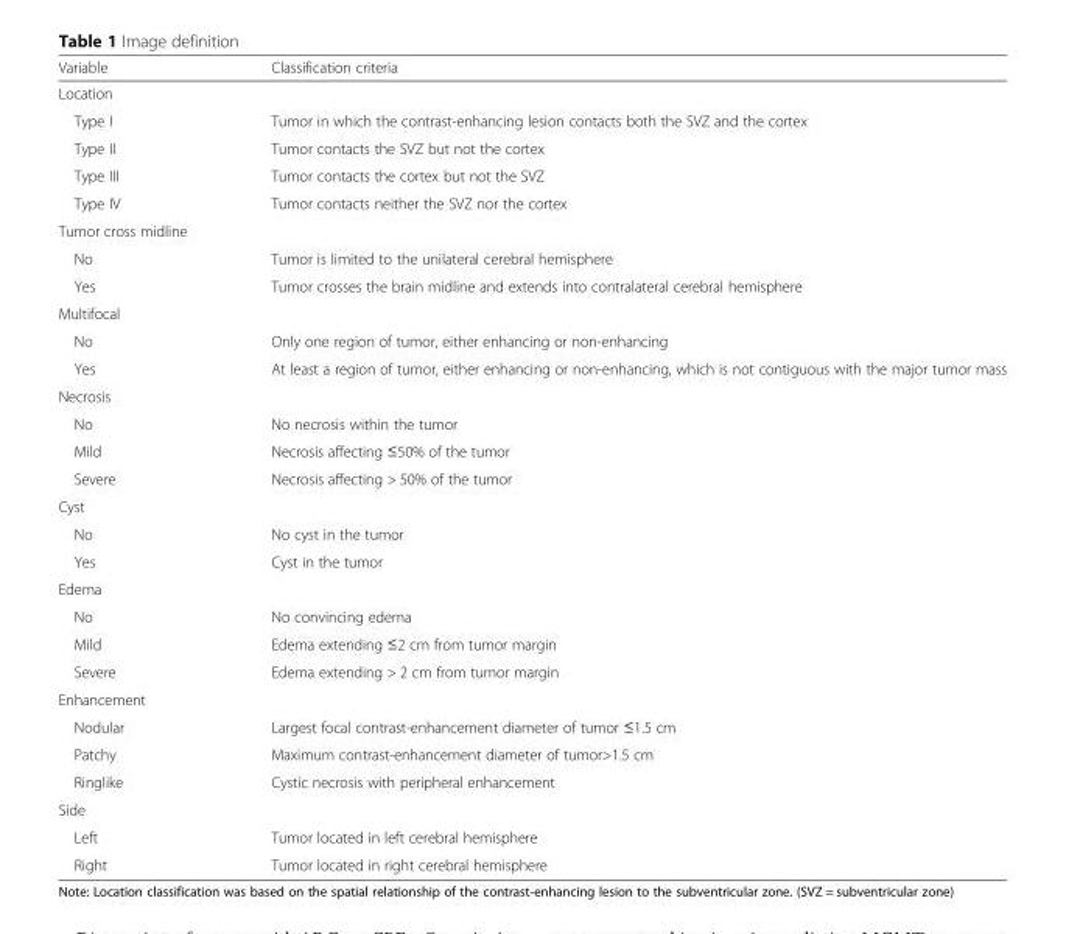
<table><thead><tr><td>Variable</td><td>Classification criteria</td></tr></thead><tbody><tr><td colspan="2">Location</td></tr><tr><td>Type I</td><td>Tumor in which the contrast-enhancing lesion contacts both the SVZ and the cortex</td></tr><tr><td>Type II</td><td>Tumor contacts the SVZ but not the cortex</td></tr><tr><td>Type III</td><td>Tumor contacts the cortex but not the SVZ</td></tr><tr><td>Type IV</td><td>Tumor contacts neither the SVZ nor the cortex</td></tr><tr><td colspan="2">Tumor cross midline</td></tr><tr><td>No</td><td>Tumor is limited to the unilateral cerebral hemisphere</td></tr><tr><td>Yes</td><td>Tumor crosses the brain midline and extends into contralateral cerebral hemisphere</td></tr><tr><td colspan="2">Multifocal</td></tr><tr><td>No</td><td>Only one region of tumor, either enhancing or non-enhancing</td></tr><tr><td>Yes</td><td>At least a region of tumor, either enhancing or non-enhancing, which is not contiguous with the major tumor mass</td></tr><tr><td colspan="2">Necrosis</td></tr><tr><td>No</td><td>No necrosis within the tumor</td></tr><tr><td>Mild</td><td>Necrosis affecting ≤50% of the tumor</td></tr><tr><td>Severe</td><td>Necrosis affecting &gt; 50% of the tumor</td></tr><tr><td colspan="2">Cyst</td></tr><tr><td>No</td><td>No cyst in the tumor</td></tr><tr><td>Yes</td><td>Cyst in the tumor</td></tr><tr><td colspan="2">Edema</td></tr><tr><td>No</td><td>No convincing edema</td></tr><tr><td>Mild</td><td>Edema extending ≤2 cm from tumor margin</td></tr><tr><td>Severe</td><td>Edema extending &gt; 2 cm from tumor margin</td></tr><tr><td colspan="2">Enhancement</td></tr><tr><td>Nodular</td><td>Largest focal contrast-enhancement diameter of tumor ≤1.5 cm</td></tr><tr><td>Patchy</td><td>Maximum contrast-enhancement diameter of tumor&gt;1.5 cm</td></tr><tr><td>Ringlike</td><td>Cystic necrosis with peripheral enhancement</td></tr><tr><td colspan="2">Side</td></tr><tr><td>Left</td><td>Tumor located in left cerebral hemisphere</td></tr><tr><td>Right</td><td>Tumor located in right cerebral hemisphere</td></tr></tbody></table>